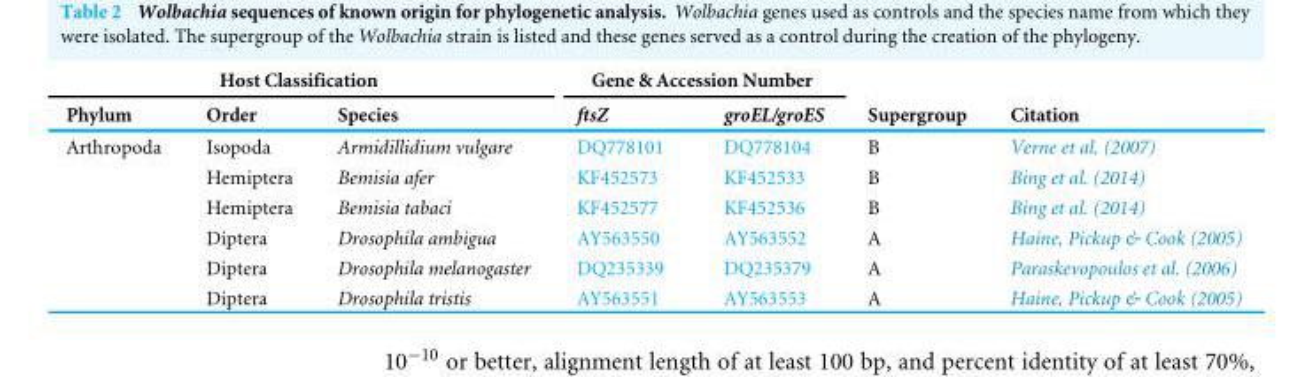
<table><thead><tr><td colspan="3">Host Classification</td><td colspan="2">Gene &amp; Accession Number</td><td rowspan="2">Supergroup</td><td rowspan="2">Citation</td></tr><tr><td>Phylum</td><td>Order</td><td>Species</td><td>ftsZ</td><td>groEL/groES</td></tr></thead><tbody><tr><td rowspan="6">Arthropoda</td><td>Isopoda</td><td>Armidillidium vulgare</td><td>DQ778101</td><td>DQ778104</td><td>B</td><td>Verne et al. (2007)</td></tr><tr><td>Hemiptera</td><td>Bemisia afer</td><td>KF452573</td><td>KF452533</td><td>B</td><td>Bing et al. (2014)</td></tr><tr><td>Hemiptera</td><td>Bemisia tabaci</td><td>KF452577</td><td>KF452536</td><td>B</td><td>Bing et al. (2014)</td></tr><tr><td>Diptera</td><td>Drosophila ambigua</td><td>AY563550</td><td>AY563552</td><td>A</td><td>Haine, Pickup &amp; Cook (2005)</td></tr><tr><td>Diptera</td><td>Drosophila melanogaster</td><td>DQ235339</td><td>DQ235379</td><td>A</td><td>Paraskevopoulos et al. (2006)</td></tr><tr><td>Diptera</td><td>Drosophila tristis</td><td>AY563551</td><td>AY563553</td><td>A</td><td>Haine, Pickup &amp; Cook (2005)</td></tr></tbody></table>